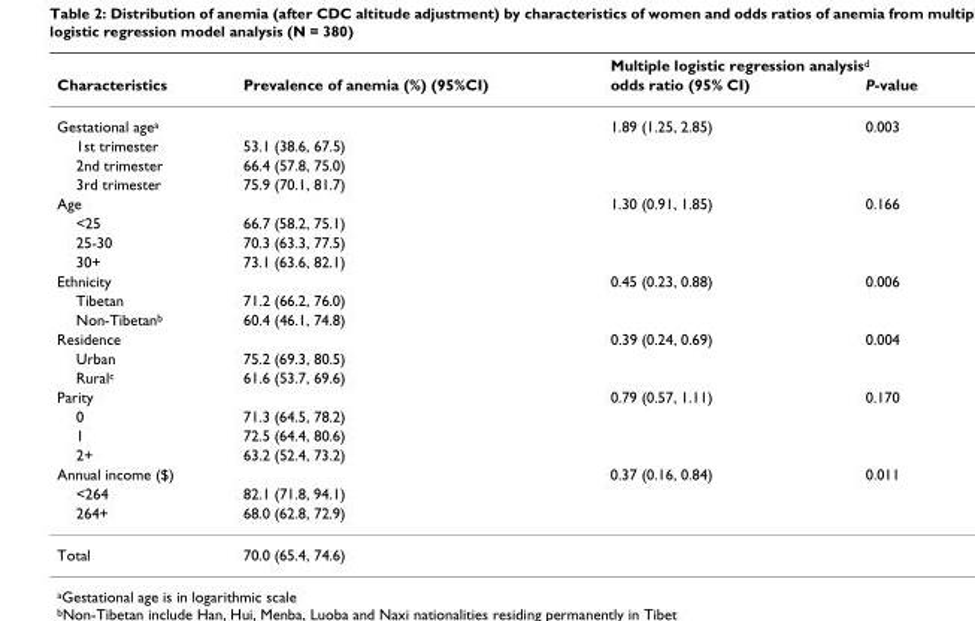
<table><thead><tr><td rowspan="2">Characteristics</td><td rowspan="2">Prevalence of anemia (%) (95%CI)</td><td colspan="2">Multiple logistic regression analysis<sup>d</sup></td></tr><tr><td>odds ratio (95% CI)</td><td>P-value</td></tr></thead><tbody><tr><td>Gestational age<sup>a</sup></td><td></td><td>1.89 (1.25, 2.85)</td><td>0.003</td></tr><tr><td>1st trimester</td><td>53.1 (38.6, 67.5)</td><td></td><td></td></tr><tr><td>2nd trimester</td><td>66.4 (57.8, 75.0)</td><td></td><td></td></tr><tr><td>3rd trimester</td><td>75.9 (70.1, 81.7)</td><td></td><td></td></tr><tr><td>Age</td><td></td><td>1.30 (0.91, 1.85)</td><td>0.166</td></tr><tr><td>&lt;25</td><td>66.7 (58.2, 75.1)</td><td></td><td></td></tr><tr><td>25-30</td><td>70.3 (63.3, 77.5)</td><td></td><td></td></tr><tr><td>30+</td><td>73.1 (63.6, 82.1)</td><td></td><td></td></tr><tr><td>Ethnicity</td><td></td><td>0.45 (0.23, 0.88)</td><td>0.006</td></tr><tr><td>Tibetan</td><td>71.2 (66.2, 76.0)</td><td></td><td></td></tr><tr><td>Non-Tibetan<sup>b</sup></td><td>60.4 (46.1, 74.8)</td><td></td><td></td></tr><tr><td>Residence</td><td></td><td>0.39 (0.24, 0.69)</td><td>0.004</td></tr><tr><td>Urban</td><td>75.2 (69.3, 80.5)</td><td></td><td></td></tr><tr><td>Rural<sup>c</sup></td><td>61.6 (53.7, 69.6)</td><td></td><td></td></tr><tr><td>Parity</td><td></td><td>0.79 (0.57, 1.11)</td><td>0.170</td></tr><tr><td>0</td><td>71.3 (64.5, 78.2)</td><td></td><td></td></tr><tr><td>1</td><td>72.5 (64.4, 80.6)</td><td></td><td></td></tr><tr><td>2+</td><td>63.2 (52.4, 73.2)</td><td></td><td></td></tr><tr><td>Annual income ($)</td><td></td><td>0.37 (0.16, 0.84)</td><td>0.011</td></tr><tr><td>&lt;264</td><td>82.1 (71.8, 94.1)</td><td></td><td></td></tr><tr><td>264+</td><td>68.0 (62.8, 72.9)</td><td></td><td></td></tr><tr><td>Total</td><td>70.0 (65.4, 74.6)</td><td></td><td></td></tr></tbody></table>